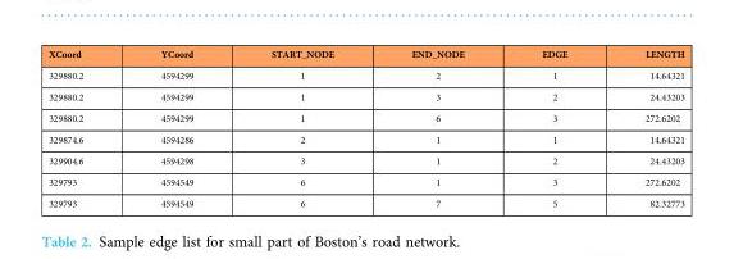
<table><thead><tr><td>XCoord</td><td>YCoord</td><td>START_NODE</td><td>END_NODE</td><td>EDGE</td><td>LENGTH</td></tr></thead><tbody><tr><td>329880.2</td><td>4594299</td><td>1</td><td>2</td><td>1</td><td>14.64321</td></tr><tr><td>329880.2</td><td>4594299</td><td>1</td><td>3</td><td>2</td><td>24.43203</td></tr><tr><td>329880.2</td><td>4594299</td><td>1</td><td>6</td><td>3</td><td>272.6202</td></tr><tr><td>329874.6</td><td>4594286</td><td>2</td><td>1</td><td>1</td><td>14.64321</td></tr><tr><td>329904.6</td><td>4594298</td><td>3</td><td>1</td><td>2</td><td>24.43203</td></tr><tr><td>329793</td><td>4594549</td><td>6</td><td>1</td><td>3</td><td>272.6202</td></tr><tr><td>329793</td><td>4594549</td><td>6</td><td>7</td><td>5</td><td>82.32773</td></tr></tbody></table>